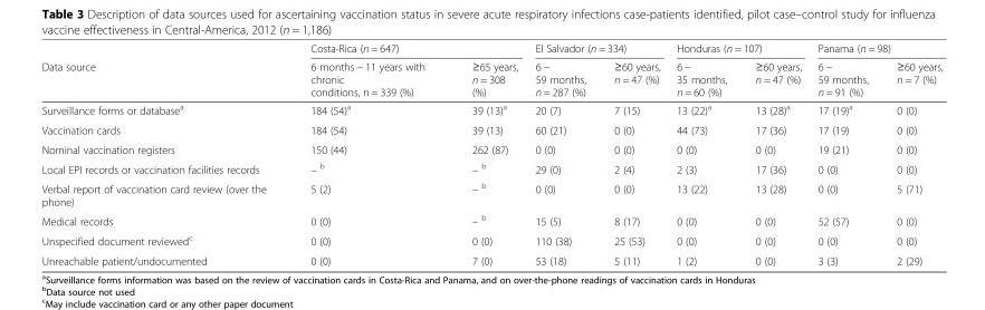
<table><thead><tr><td rowspan="2">Data source</td><td colspan="2">Costa-Rica (n = 647)</td><td colspan="2">El Salvador (n = 334)</td><td colspan="2">Honduras (n = 107)</td><td colspan="2">Panama (n = 98)</td></tr><tr><td>6 months − 11 years with chronic conditions, n = 339 (%)</td><td>≥65 years, n = 308 (%)</td><td>6 − 59 months, n = 287 (%)</td><td>≥60 years, n = 47 (%)</td><td>6 − 35 months, n = 60 (%)</td><td>≥60 years, n = 47 (%)</td><td>6 − 59 months, n = 91 (%)</td><td>≥60 years, n = 7 (%)</td></tr></thead><tbody><tr><td>Surveillance forms or database<sup>a</sup></td><td>184 (54)<sup>a</sup></td><td>39 (13)<sup>a</sup></td><td>20 (7)</td><td>7 (15)</td><td>13 (22)<sup>a</sup></td><td>13 (28)<sup>a</sup></td><td>17 (19)<sup>a</sup></td><td>0 (0)</td></tr><tr><td>Vaccination cards</td><td>184 (54)</td><td>39 (13)</td><td>60 (21)</td><td>0 (0)</td><td>44 (73)</td><td>17 (36)</td><td>17 (19)</td><td>0 (0)</td></tr><tr><td>Nominal vaccination registers</td><td>150 (44)</td><td>262 (87)</td><td>0 (0)</td><td>0 (0)</td><td>0 (0)</td><td>0 (0)</td><td>19 (21)</td><td>0 (0)</td></tr><tr><td>Local EPI records or vaccination facilities records</td><td>– <sup>b</sup></td><td>– <sup>b</sup></td><td>29 (0)</td><td>2 (4)</td><td>2 (3)</td><td>17 (36)</td><td>0 (0)</td><td>0 (0)</td></tr><tr><td>Verbal report of vaccination card review (over the phone)</td><td>5 (2)</td><td>– <sup>b</sup></td><td>0 (0)</td><td>0 (0)</td><td>13 (22)</td><td>13 (28)</td><td>0 (0)</td><td>5 (71)</td></tr><tr><td>Medical records</td><td>0 (0)</td><td>– <sup>b</sup></td><td>15 (5)</td><td>8 (17)</td><td>0 (0)</td><td>0 (0)</td><td>52 (57)</td><td>0 (0)</td></tr><tr><td>Unspecified document reviewed<sup>c</sup></td><td>0 (0)</td><td>0 (0)</td><td>110 (38)</td><td>25 (53)</td><td>0 (0)</td><td>0 (0)</td><td>0 (0)</td><td>0 (0)</td></tr><tr><td>Unreachable patient/undocumented</td><td>0 (0)</td><td>7 (0)</td><td>53 (18)</td><td>5 (11)</td><td>1 (2)</td><td>0 (0)</td><td>3 (3)</td><td>2 (29)</td></tr></tbody></table>